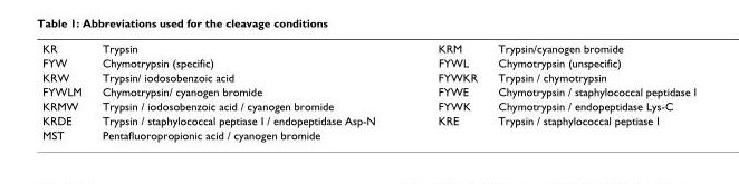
<table><tbody><tr><td>KR</td><td>Trypsin</td><td>KRM</td><td>Trypsin/cyanogen bromide</td></tr><tr><td>FYW</td><td>Chymotrypsin (specific)</td><td>FYWL</td><td>Chymotrypsin (unspecific)</td></tr><tr><td>KRW</td><td>Trypsin/ iodosobenzoic acid</td><td>FYWKR</td><td>Trypsin / chymotrypsin</td></tr><tr><td>FYWLM</td><td>Chymotrypsin/ cyanogen bromide</td><td>FYWE</td><td>Chymotrypsin / staphylococcal peptidase I</td></tr><tr><td>KRMW</td><td>Trypsin / iodosobenzoic acid / cyanogen bromide</td><td>FYWK</td><td>Chymotrypsin / endopeptidase Lys-C</td></tr><tr><td>KRDE</td><td>Trypsin / staphylococcal peptiase I / endopeptidase Asp-N</td><td>KRE</td><td>Trypsin / staphylococcal peptiase I</td></tr><tr><td>MST</td><td>Pentafluoropropionic acid / cyanogen bromide</td><td></td><td></td></tr></tbody></table>